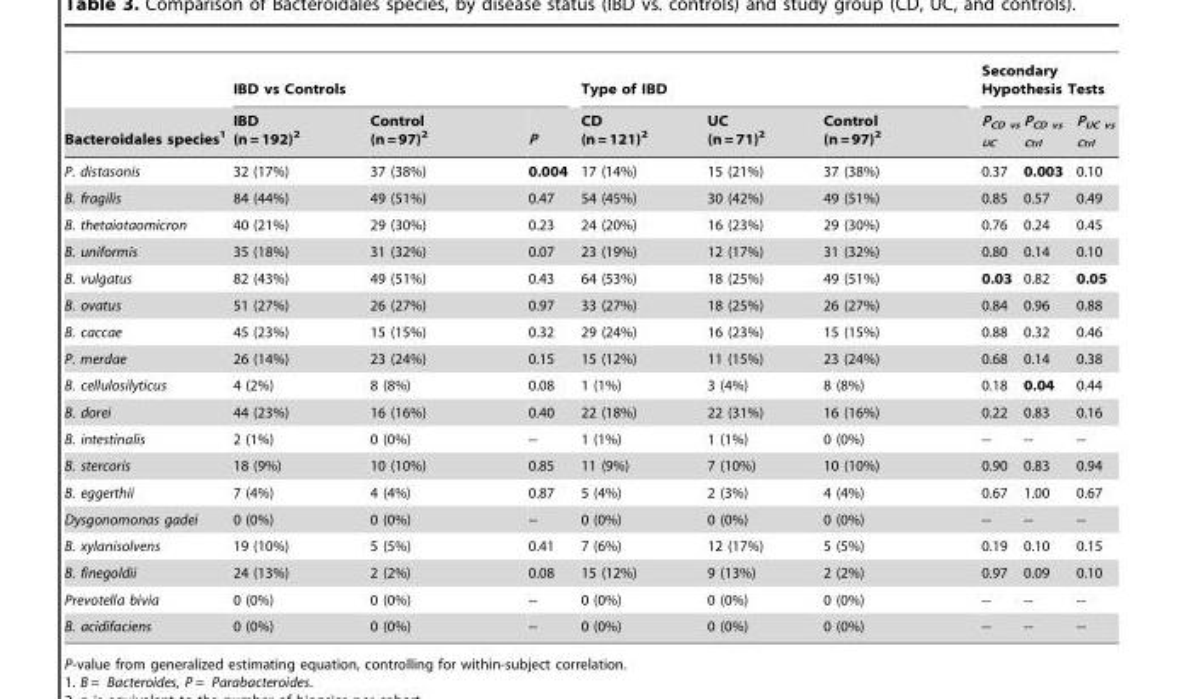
<table><thead><tr><td rowspan="2">Bacteroidales species<sup>1</sup></td><td colspan="3">IBD vs Controls</td><td colspan="3">Type of IBD</td><td colspan="3">Secondary Hypothesis Tests</td></tr><tr><td>IBD (n = 192)<sup>2</sup></td><td>Control (n = 97)<sup>2</sup></td><td>P</td><td>CD (n = 121)<sup>2</sup></td><td>UC (n = 71)<sup>2</sup></td><td>Control (n = 97)<sup>2</sup></td><td>P<sub>CD vs UC</sub></td><td>P<sub>CD vs Ctrl</sub></td><td>P<sub>UC vs Ctrl</sub></td></tr></thead><tbody><tr><td>P. distasonis</td><td>32 (17%)</td><td>37 (38%)</td><td>0.004</td><td>17 (14%)</td><td>15 (21%)</td><td>37 (38%)</td><td>0.37</td><td>0.003</td><td>0.10</td></tr><tr><td>B. fragilis</td><td>84 (44%)</td><td>49 (51%)</td><td>0.47</td><td>54 (45%)</td><td>30 (42%)</td><td>49 (51%)</td><td>0.85</td><td>0.57</td><td>0.49</td></tr><tr><td>B. thetaiotaomicron</td><td>40 (21%)</td><td>29 (30%)</td><td>0.23</td><td>24 (20%)</td><td>16 (23%)</td><td>29 (30%)</td><td>0.76</td><td>0.24</td><td>0.45</td></tr><tr><td>B. uniformis</td><td>35 (18%)</td><td>31 (32%)</td><td>0.07</td><td>23 (19%)</td><td>12 (17%)</td><td>31 (32%)</td><td>0.80</td><td>0.14</td><td>0.10</td></tr><tr><td>B. vulgatus</td><td>82 (43%)</td><td>49 (51%)</td><td>0.43</td><td>64 (53%)</td><td>18 (25%)</td><td>49 (51%)</td><td>0.03</td><td>0.82</td><td>0.05</td></tr><tr><td>B. ovatus</td><td>51 (27%)</td><td>26 (27%)</td><td>0.97</td><td>33 (27%)</td><td>18 (25%)</td><td>26 (27%)</td><td>0.84</td><td>0.96</td><td>0.88</td></tr><tr><td>B. caccae</td><td>45 (23%)</td><td>15 (15%)</td><td>0.32</td><td>29 (24%)</td><td>16 (23%)</td><td>15 (15%)</td><td>0.88</td><td>0.32</td><td>0.46</td></tr><tr><td>P. merdae</td><td>26 (14%)</td><td>23 (24%)</td><td>0.15</td><td>15 (12%)</td><td>11 (15%)</td><td>23 (24%)</td><td>0.68</td><td>0.14</td><td>0.38</td></tr><tr><td>B. cellulosilyticus</td><td>4 (2%)</td><td>8 (8%)</td><td>0.08</td><td>1 (1%)</td><td>3 (4%)</td><td>8 (8%)</td><td>0.18</td><td>0.04</td><td>0.44</td></tr><tr><td>B. dorei</td><td>44 (23%)</td><td>16 (16%)</td><td>0.40</td><td>22 (18%)</td><td>22 (31%)</td><td>16 (16%)</td><td>0.22</td><td>0.83</td><td>0.16</td></tr><tr><td>B. intestinalis</td><td>2 (1%)</td><td>0 (0%)</td><td>--</td><td>1 (1%)</td><td>1 (1%)</td><td>0 (0%)</td><td>--</td><td>--</td><td>--</td></tr><tr><td>B. stercoris</td><td>18 (9%)</td><td>10 (10%)</td><td>0.85</td><td>11 (9%)</td><td>7 (10%)</td><td>10 (10%)</td><td>0.90</td><td>0.83</td><td>0.94</td></tr><tr><td>B. eggerthii</td><td>7 (4%)</td><td>4 (4%)</td><td>0.87</td><td>5 (4%)</td><td>2 (3%)</td><td>4 (4%)</td><td>0.67</td><td>1.00</td><td>0.67</td></tr><tr><td>Dysgonomonas gadei</td><td>0 (0%)</td><td>0 (0%)</td><td>--</td><td>0 (0%)</td><td>0 (0%)</td><td>0 (0%)</td><td>--</td><td>--</td><td>--</td></tr><tr><td>B. xylanisolvens</td><td>19 (10%)</td><td>5 (5%)</td><td>0.41</td><td>7 (6%)</td><td>12 (17%)</td><td>5 (5%)</td><td>0.19</td><td>0.10</td><td>0.15</td></tr><tr><td>B. finegoldii</td><td>24 (13%)</td><td>2 (2%)</td><td>0.08</td><td>15 (12%)</td><td>9 (13%)</td><td>2 (2%)</td><td>0.97</td><td>0.09</td><td>0.10</td></tr><tr><td>Prevotella bivia</td><td>0 (0%)</td><td>0 (0%)</td><td>--</td><td>0 (0%)</td><td>0 (0%)</td><td>0 (0%)</td><td>--</td><td>--</td><td>--</td></tr><tr><td>B. acidifaciens</td><td>0 (0%)</td><td>0 (0%)</td><td>--</td><td>0 (0%)</td><td>0 (0%)</td><td>0 (0%)</td><td>--</td><td>--</td><td>--</td></tr></tbody></table>